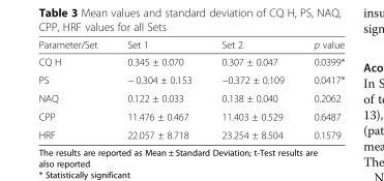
<table><thead><tr><td>Parameter/Set</td><td>Set 1</td><td>Set 2</td><td>p value</td></tr></thead><tbody><tr><td>CQ H</td><td>0.345 ± 0.070</td><td>0.307 ± 0.047</td><td>0.0399*</td></tr><tr><td>PS</td><td>− 0.304 ± 0.153</td><td>−0.372 ± 0.109</td><td>0.0417*</td></tr><tr><td>NAQ</td><td>0.122 ± 0.033</td><td>0.138 ± 0.040</td><td>0.2062</td></tr><tr><td>CPP</td><td>11.476 ± 0.467</td><td>11.403 ± 0.529</td><td>0.6487</td></tr><tr><td>HRF</td><td>22.057 ± 8.718</td><td>23.254 ± 8.504</td><td>0.1579</td></tr></tbody></table>